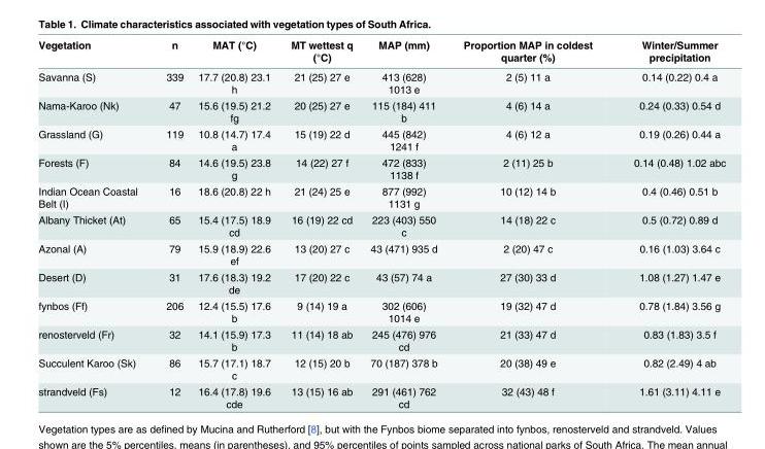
<table><thead><tr><td>Vegetation</td><td>n</td><td>MAT (°C)</td><td>MT wettest q (°C)</td><td>MAP (mm)</td><td>Proportion MAP in coldest quarter (%)</td><td>Winter/Summer precipitation</td></tr></thead><tbody><tr><td>Savanna (S)</td><td>339</td><td>17.7 (20.8) 23.1 h</td><td>21 (25) 27 e</td><td>413 (628) 1013 e</td><td>2 (5) 11 a</td><td>0.14 (0.22) 0.4 a</td></tr><tr><td>Nama-Karoo (Nk)</td><td>47</td><td>15.6 (19.5) 21.2 fg</td><td>20 (25) 27 e</td><td>115 (184) 411 b</td><td>4 (6) 14 a</td><td>0.24 (0.33) 0.54 d</td></tr><tr><td>Grassland (G)</td><td>119</td><td>10.8 (14.7) 17.4 a</td><td>15 (19) 22 d</td><td>445 (842) 1241 f</td><td>4 (6) 12 a</td><td>0.19 (0.26) 0.44 a</td></tr><tr><td>Forests (F)</td><td>84</td><td>14.6 (19.5) 23.8 g</td><td>14 (22) 27 f</td><td>472 (833) 1138 f</td><td>2 (11) 25 b</td><td>0.14 (0.48) 1.02 abc</td></tr><tr><td>Indian Ocean Coastal Belt (I)</td><td>16</td><td>18.6 (20.8) 22 h</td><td>21 (24) 25 e</td><td>877 (992) 1131 g</td><td>10 (12) 14 b</td><td>0.4 (0.46) 0.51 b</td></tr><tr><td>Albany Thicket (At)</td><td>65</td><td>15.4 (17.5) 18.9 cd</td><td>16 (19) 22 cd</td><td>223 (403) 550 c</td><td>14 (18) 22 c</td><td>0.5 (0.72) 0.89 d</td></tr><tr><td>Azonal (A)</td><td>79</td><td>15.9 (18.9) 22.6 ef</td><td>13 (20) 27 c</td><td>43 (471) 935 d</td><td>2 (20) 47 c</td><td>0.16 (1.03) 3.64 c</td></tr><tr><td>Desert (D)</td><td>31</td><td>17.6 (18.3) 19.2 de</td><td>17 (20) 22 c</td><td>43 (57) 74 a</td><td>27 (30) 33 d</td><td>1.08 (1.27) 1.47 e</td></tr><tr><td>fynbos (Ff)</td><td>206</td><td>12.4 (15.5) 17.6 b</td><td>9 (14) 19 a</td><td>302 (606) 1014 e</td><td>19 (32) 47 d</td><td>0.78 (1.84) 3.56 g</td></tr><tr><td>renosterveld (Fr)</td><td>32</td><td>14.1 (15.9) 17.3 b</td><td>11 (14) 18 ab</td><td>245 (476) 976 cd</td><td>21 (33) 47 d</td><td>0.83 (1.83) 3.5 f</td></tr><tr><td>Succulent Karoo (Sk)</td><td>86</td><td>15.7 (17.1) 18.7 c</td><td>12 (15) 20 b</td><td>70 (187) 378 b</td><td>20 (38) 49 e</td><td>0.82 (2.49) 4 ab</td></tr><tr><td>strandveld (Fs)</td><td>12</td><td>16.4 (17.8) 19.6 cde</td><td>13 (15) 16 ab</td><td>291 (461) 762 cd</td><td>32 (43) 48 f</td><td>1.61 (3.11) 4.11 e</td></tr></tbody></table>